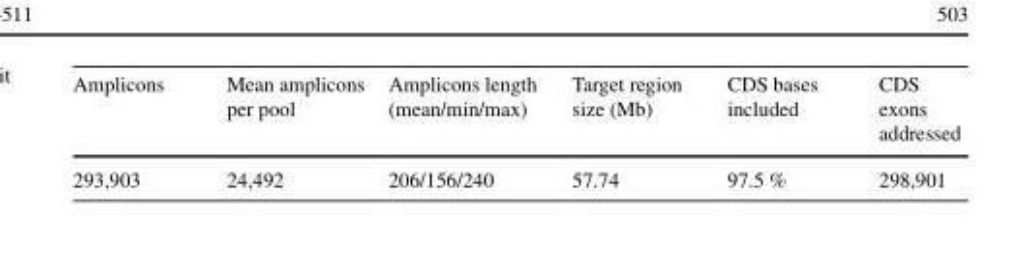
<table><thead><tr><td>Amplicons</td><td>Mean amplicons per pool</td><td>Amplicons length (mean/min/max)</td><td>Target region size (Mb)</td><td>CDS bases included</td><td>CDS exons addressed</td></tr></thead><tbody><tr><td>293,903</td><td>24,492</td><td>206/156/240</td><td>57.74</td><td>97.5 %</td><td>298,901</td></tr></tbody></table>